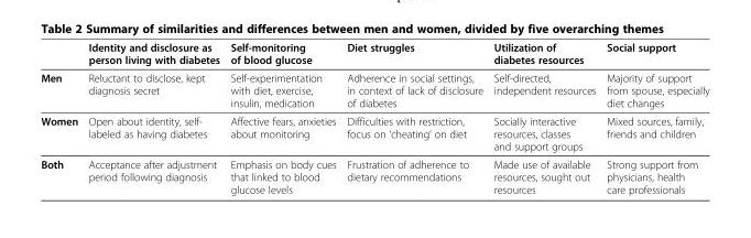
<table><thead><tr><td></td><td>Identity and disclosure as person living with diabetes</td><td>Self-monitoring of blood glucose</td><td>Diet struggles</td><td>Utilization of diabetes resources</td><td>Social support</td></tr></thead><tbody><tr><td>Men</td><td>Reluctant to disclose, kept diagnosis secret</td><td>Self-experimentation with diet, exercise, insulin, medication</td><td>Adherence in social settings, in context of lack of disclosure of diabetes</td><td>Self-directed, independent resources</td><td>Majority of support from spouse, especially diet changes</td></tr><tr><td>Women</td><td>Open about identity, self- labeled as having diabetes</td><td>Affective fears, anxieties about monitoring</td><td>Difficulties with restriction, focus on ‘cheating’ on diet</td><td>Socially interactive resources, classes and support groups</td><td>Mixed sources, family, friends and children</td></tr><tr><td>Both</td><td>Acceptance after adjustment period following diagnosis</td><td>Emphasis on body cues that linked to blood glucose levels</td><td>Frustration of adherence to dietary recommendations</td><td>Made use of available resources, sought out resources</td><td>Strong support from physicians, health care professionals</td></tr></tbody></table>